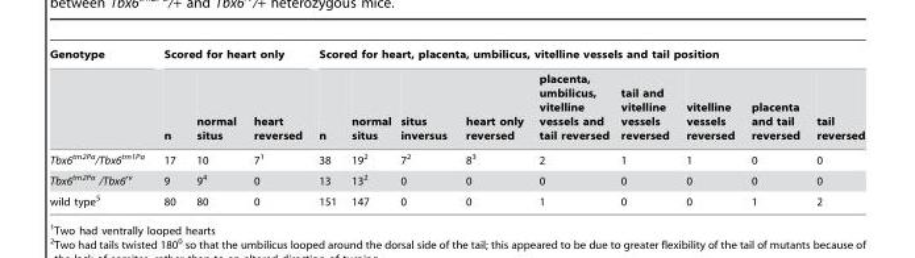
<table><thead><tr><td rowspan="2">Genotype</td><td colspan="3">Scored for heart only</td><td colspan="9">Scored for heart, placenta, umbilicus, vitelline vessels and tail position</td></tr><tr><td>n</td><td>normal situs</td><td>heart reversed</td><td>n</td><td>normal situs</td><td>situs inversus</td><td>heart only reversed</td><td>placenta, umbilicus, vitelline vessels and tail reversed</td><td>tail and vitelline vessels reversed</td><td>vitelline vessels reversed</td><td>placenta and tail reversed</td><td>tail reversed</td></tr></thead><tbody><tr><td>Tbx6<sup>tm2Pa</sup>/Tbx6<sup>tm1Pa</sup></td><td>17</td><td>10</td><td>7<sup>1</sup></td><td>38</td><td>19<sup>2</sup></td><td>7<sup>2</sup></td><td>8<sup>3</sup></td><td>2</td><td>1</td><td>1</td><td>0</td><td>0</td></tr><tr><td>Tbx6<sup>tm2Pa</sup> /Tbx6<sup>rv</sup></td><td>9</td><td>9<sup>4</sup></td><td>0</td><td>13</td><td>13<sup>2</sup></td><td>0</td><td>0</td><td>0</td><td>0</td><td>0</td><td>0</td><td>0</td></tr><tr><td>wild type<sup>5</sup></td><td>80</td><td>80</td><td>0</td><td>151</td><td>147</td><td>0</td><td>0</td><td>1</td><td>0</td><td>0</td><td>1</td><td>2</td></tr></tbody></table>